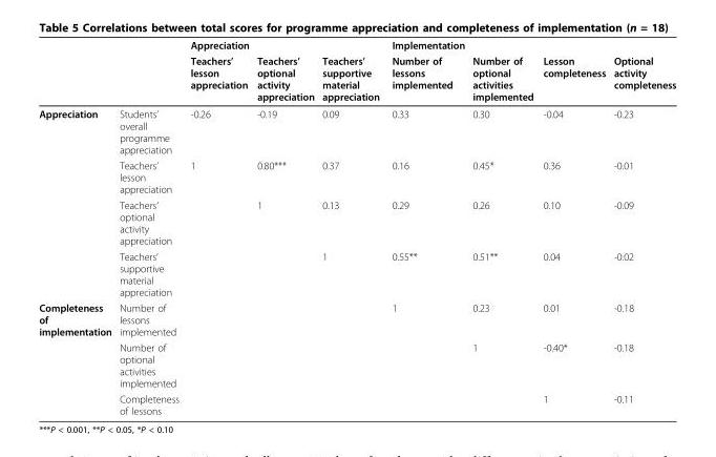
<table><thead><tr><td rowspan="2"></td><td rowspan="2"></td><td rowspan="2">Appreciation Teachers’ lesson appreciation</td><td rowspan="2">Teachers’ optional activity appreciation</td><td rowspan="2">Teachers’ supportive material appreciation</td><td rowspan="2">Implementation Number of lessons implemented</td><td rowspan="2">Number of optional activities implemented</td><td rowspan="2">Lesson completeness</td><td rowspan="2">Optional activity completeness</td></tr><tr></tr></thead><tbody><tr><td rowspan="4">Appreciation</td><td>Students’ overall programme appreciation</td><td>-0.26</td><td>-0.19</td><td>0.09</td><td>0.33</td><td>0.30</td><td>-0.04</td><td>-0.23</td></tr><tr><td>Teachers’ lesson appreciation</td><td>1</td><td>0.80***</td><td>0.37</td><td>0.16</td><td>0.45*</td><td>0.36</td><td>-0.01</td></tr><tr><td>Teachers’ optional activity appreciation</td><td></td><td>1</td><td>0.13</td><td>0.29</td><td>0.26</td><td>0.10</td><td>-0.09</td></tr><tr><td>Teachers’ supportive material appreciation</td><td></td><td></td><td>1</td><td>0.55**</td><td>0.51**</td><td>0.04</td><td>-0.02</td></tr><tr><td rowspan="3">Completeness of implementation</td><td>Number of lessons implemented</td><td></td><td></td><td></td><td>1</td><td>0.23</td><td>0.01</td><td>-0.18</td></tr><tr><td>Number of optional activities implemented</td><td></td><td></td><td></td><td></td><td>1</td><td>-0.40*</td><td>-0.18</td></tr><tr><td>Completeness of lessons</td><td></td><td></td><td></td><td></td><td></td><td>1</td><td>-0.11</td></tr></tbody></table>